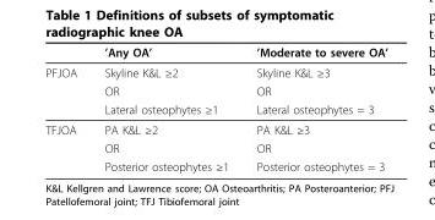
<table><thead><tr><td></td><td>’Any OA’</td><td>’Moderate to severe OA’</td></tr></thead><tbody><tr><td rowspan="3">PFJOA</td><td>Skyline K&amp;L ≥2</td><td>Skyline K&amp;L ≥3</td></tr><tr><td>OR</td><td>OR</td></tr><tr><td>Lateral osteophytes ≥1</td><td>Lateral osteophytes = 3</td></tr><tr><td rowspan="3">TFJOA</td><td>PA K&amp;L ≥2</td><td>PA K&amp;L ≥3</td></tr><tr><td>OR</td><td>OR</td></tr><tr><td>Posterior osteophytes ≥1</td><td>Posterior osteophytes = 3</td></tr></tbody></table>